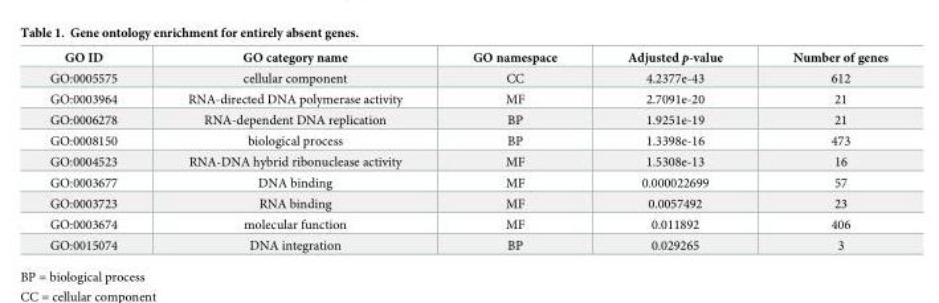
<table><thead><tr><td>GO ID</td><td>GO category name</td><td>GO namespace</td><td>Adjusted p-value</td><td>Number of genes</td></tr></thead><tbody><tr><td>GO:0005575</td><td>cellular component</td><td>CC</td><td>4.2377e-43</td><td>612</td></tr><tr><td>GO:0003964</td><td>RNA-directed DNA polymerase activity</td><td>MF</td><td>2.7091e-20</td><td>21</td></tr><tr><td>GO:0006278</td><td>RNA-dependent DNA replication</td><td>BP</td><td>1.9251e-19</td><td>21</td></tr><tr><td>GO:0008150</td><td>biological process</td><td>BP</td><td>1.3398e-16</td><td>473</td></tr><tr><td>GO:0004523</td><td>RNA-DNA hybrid ribonuclease activity</td><td>MF</td><td>1.5308e-13</td><td>16</td></tr><tr><td>GO:0003677</td><td>DNA binding</td><td>MF</td><td>0.000022699</td><td>57</td></tr><tr><td>GO:0003723</td><td>RNA binding</td><td>MF</td><td>0.0057492</td><td>23</td></tr><tr><td>GO:0003674</td><td>molecular function</td><td>MF</td><td>0.011892</td><td>406</td></tr><tr><td>GO:0015074</td><td>DNA integration</td><td>BP</td><td>0.029265</td><td>3</td></tr></tbody></table>